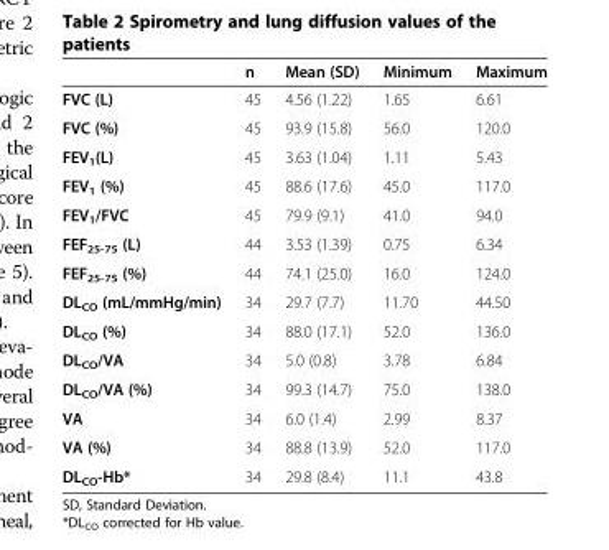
<table><thead><tr><td></td><td>n</td><td>Mean (SD)</td><td>Minimum</td><td>Maximum</td></tr></thead><tbody><tr><td>FVC (L)</td><td>45</td><td>4.56 (1.22)</td><td>1.65</td><td>6.61</td></tr><tr><td>FVC (%)</td><td>45</td><td>93.9 (15.8)</td><td>56.0</td><td>120.0</td></tr><tr><td>FEV<sub>1</sub>(L)</td><td>45</td><td>3.63 (1.04)</td><td>1.11</td><td>5.43</td></tr><tr><td>FEV<sub>1</sub> (%)</td><td>45</td><td>88.6 (17.6)</td><td>45.0</td><td>117.0</td></tr><tr><td>FEV<sub>1</sub>/FVC</td><td>45</td><td>79.9 (9.1)</td><td>41.0</td><td>94.0</td></tr><tr><td>FEF<sub>25-75</sub> (L)</td><td>44</td><td>3.53 (1.39)</td><td>0.75</td><td>6.34</td></tr><tr><td>FEF<sub>25-75</sub> (%)</td><td>44</td><td>74.1 (25.0)</td><td>16.0</td><td>124.0</td></tr><tr><td>DL<sub>CO</sub> (mL/mmHg/min)</td><td>34</td><td>29.7 (7.7)</td><td>11.70</td><td>44.50</td></tr><tr><td>DL<sub>CO</sub> (%)</td><td>34</td><td>88.0 (17.1)</td><td>52.0</td><td>136.0</td></tr><tr><td>DL<sub>CO</sub>/VA</td><td>34</td><td>5.0 (0.8)</td><td>3.78</td><td>6.84</td></tr><tr><td>DL<sub>CO</sub>/VA (%)</td><td>34</td><td>99.3 (14.7)</td><td>75.0</td><td>138.0</td></tr><tr><td>VA</td><td>34</td><td>6.0 (1.4)</td><td>2.99</td><td>8.37</td></tr><tr><td>VA (%)</td><td>34</td><td>88.8 (13.9)</td><td>52.0</td><td>117.0</td></tr><tr><td>DL<sub>CO</sub>-Hb*</td><td>34</td><td>29.8 (8.4)</td><td>11.1</td><td>43.8</td></tr></tbody></table>